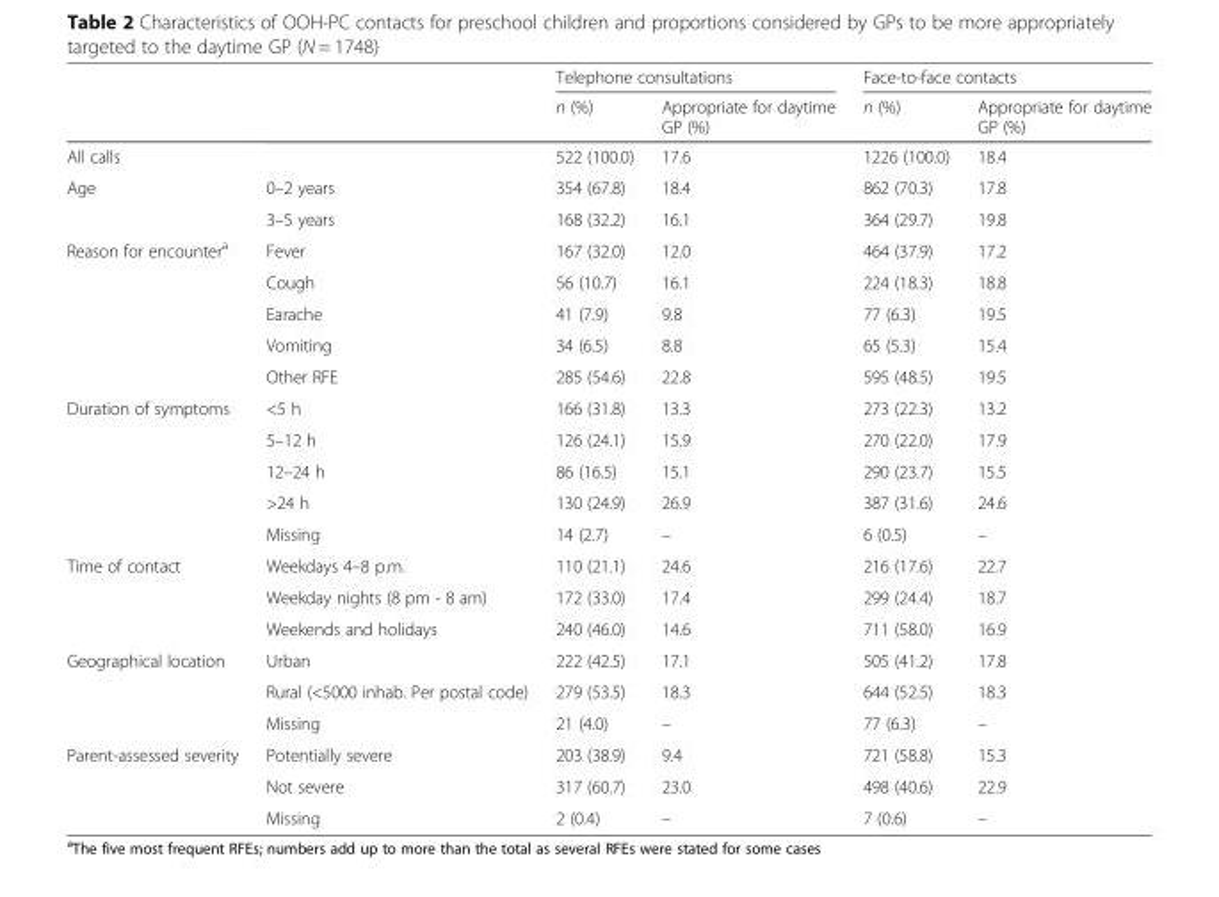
<table><thead><tr><td rowspan="2"></td><td rowspan="2"></td><td colspan="2">Telephone consultations</td><td colspan="2">Face-to-face contacts</td></tr><tr><td>n (%)</td><td>Appropriate for daytime GP (%)</td><td>n (%)</td><td>Appropriate for daytime GP (%)</td></tr></thead><tbody><tr><td>All calls</td><td></td><td>522 (100.0)</td><td>17.6</td><td>1226 (100.0)</td><td>18.4</td></tr><tr><td rowspan="2">Age</td><td>0–2 years</td><td>354 (67.8)</td><td>18.4</td><td>862 (70.3)</td><td>17.8</td></tr><tr><td>3–5 years</td><td>168 (32.2)</td><td>16.1</td><td>364 (29.7)</td><td>19.8</td></tr><tr><td rowspan="5">Reason for encounter<sup>a</sup></td><td>Fever</td><td>167 (32.0)</td><td>12.0</td><td>464 (37.9)</td><td>17.2</td></tr><tr><td>Cough</td><td>56 (10.7)</td><td>16.1</td><td>224 (18.3)</td><td>18.8</td></tr><tr><td>Earache</td><td>41 (7.9)</td><td>9.8</td><td>77 (6.3)</td><td>19.5</td></tr><tr><td>Vomiting</td><td>34 (6.5)</td><td>8.8</td><td>65 (5.3)</td><td>15.4</td></tr><tr><td>Other RFE</td><td>285 (54.6)</td><td>22.8</td><td>595 (48.5)</td><td>19.5</td></tr><tr><td rowspan="5">Duration of symptoms</td><td>&lt;5 h</td><td>166 (31.8)</td><td>13.3</td><td>273 (22.3)</td><td>13.2</td></tr><tr><td>5–12 h</td><td>126 (24.1)</td><td>15.9</td><td>270 (22.0)</td><td>17.9</td></tr><tr><td>12–24 h</td><td>86 (16.5)</td><td>15.1</td><td>290 (23.7)</td><td>15.5</td></tr><tr><td>&gt;24 h</td><td>130 (24.9)</td><td>26.9</td><td>387 (31.6)</td><td>24.6</td></tr><tr><td>Missing</td><td>14 (2.7)</td><td>–</td><td>6 (0.5)</td><td>–</td></tr><tr><td rowspan="3">Time of contact</td><td>Weekdays 4–8 p.m.</td><td>110 (21.1)</td><td>24.6</td><td>216 (17.6)</td><td>22.7</td></tr><tr><td>Weekday nights (8 pm - 8 am)</td><td>172 (33.0)</td><td>17.4</td><td>299 (24.4)</td><td>18.7</td></tr><tr><td>Weekends and holidays</td><td>240 (46.0)</td><td>14.6</td><td>711 (58.0)</td><td>16.9</td></tr><tr><td rowspan="3">Geographical location</td><td>Urban</td><td>222 (42.5)</td><td>17.1</td><td>505 (41.2)</td><td>17.8</td></tr><tr><td>Rural (&lt;5000 inhab. Per postal code)</td><td>279 (53.5)</td><td>18.3</td><td>644 (52.5)</td><td>18.3</td></tr><tr><td>Missing</td><td>21 (4.0)</td><td>–</td><td>77 (6.3)</td><td>–</td></tr><tr><td rowspan="3">Parent-assessed severity</td><td>Potentially severe</td><td>203 (38.9)</td><td>9.4</td><td>721 (58.8)</td><td>15.3</td></tr><tr><td>Not severe</td><td>317 (60.7)</td><td>23.0</td><td>498 (40.6)</td><td>22.9</td></tr><tr><td>Missing</td><td>2 (0.4)</td><td>–</td><td>7 (0.6)</td><td>–</td></tr></tbody></table>